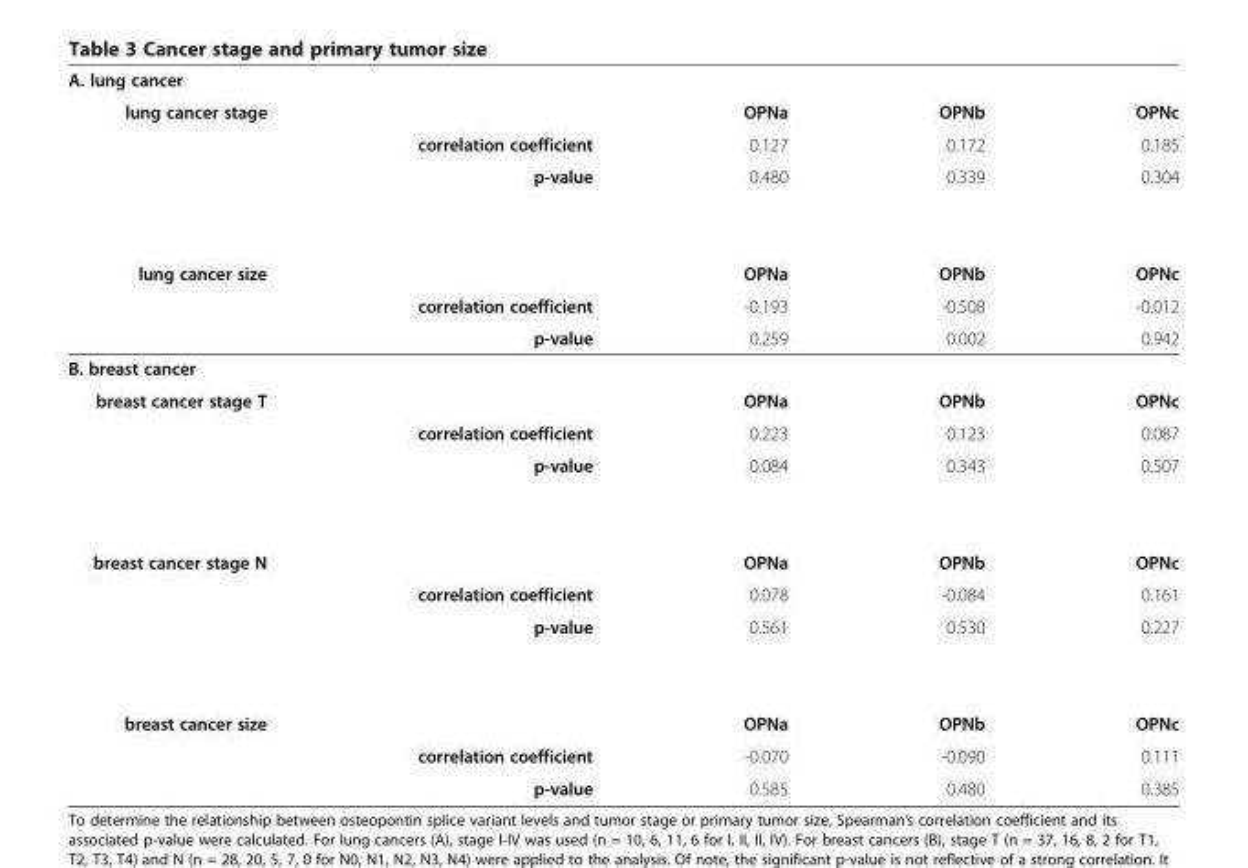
<table><tbody><tr><td colspan="5">A. lung cancer</td></tr><tr><td rowspan="3">lung cancer stage</td><td></td><td>OPNa</td><td>OPNb</td><td>OPNc</td></tr><tr><td>correlation coefficient</td><td>0.127</td><td>0.172</td><td>0.185</td></tr><tr><td>p-value</td><td>0.480</td><td>0.339</td><td>0.304</td></tr><tr><td rowspan="3">lung cancer size</td><td></td><td>OPNa</td><td>OPNb</td><td>OPNc</td></tr><tr><td>correlation coefficient</td><td>-0.193</td><td>-0.508</td><td>-0.012</td></tr><tr><td>p-value</td><td>0.259</td><td>0.002</td><td>0.942</td></tr><tr><td colspan="5">B. breast cancer</td></tr><tr><td rowspan="3">breast cancer stage T</td><td></td><td>OPNa</td><td>OPNb</td><td>OPNc</td></tr><tr><td>correlation coefficient</td><td>0.223</td><td>0.123</td><td>0.087</td></tr><tr><td>p-value</td><td>0.084</td><td>0.343</td><td>0.507</td></tr><tr><td rowspan="3">breast cancer stage N</td><td></td><td>OPNa</td><td>OPNb</td><td>OPNc</td></tr><tr><td>correlation coefficient</td><td>0.078</td><td>-0.084</td><td>0.161</td></tr><tr><td>p-value</td><td>0.561</td><td>0.530</td><td>0.227</td></tr><tr><td rowspan="3">breast cancer size</td><td></td><td>OPNa</td><td>OPNb</td><td>OPNc</td></tr><tr><td>correlation coefficient</td><td>-0.070</td><td>-0.090</td><td>0.111</td></tr><tr><td>p-value</td><td>0.585</td><td>0.480</td><td>0.385</td></tr></tbody></table>